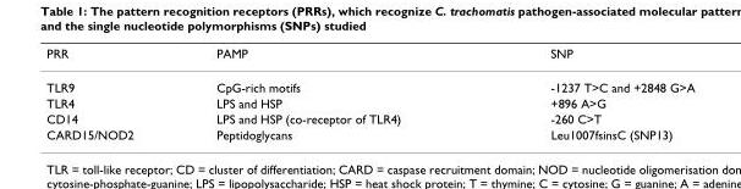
<table><thead><tr><td>PRR</td><td>PAMP</td><td>SNP</td></tr></thead><tbody><tr><td>TLR9</td><td>CpG-rich motifs</td><td>-1237 T&gt;C and +2848 G&gt;A</td></tr><tr><td>TLR4</td><td>LPS and HSP</td><td>+896 A&gt;G</td></tr><tr><td>CD14</td><td>LPS and HSP (co-receptor of TLR4)</td><td>-260 C&gt;T</td></tr><tr><td>CARD15/NOD2</td><td>Peptidoglycans</td><td>Leu1007fsinsC (SNP13)</td></tr></tbody></table>